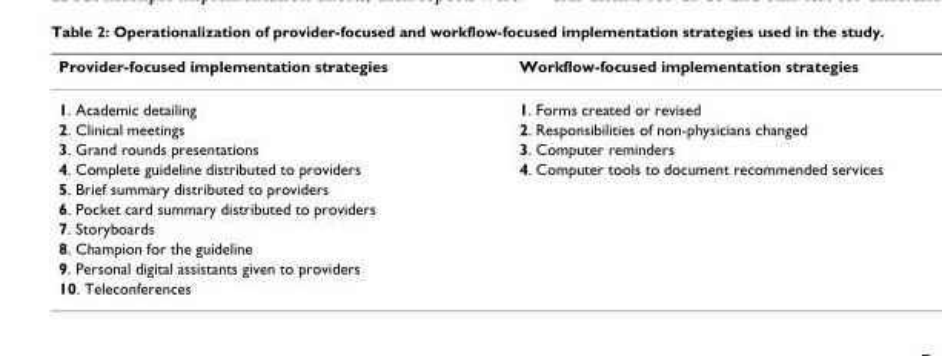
<table><thead><tr><td>Provider-focused implementation strategies</td><td>Workflow-focused implementation strategies</td></tr></thead><tbody><tr><td>1. Academic detailing</td><td>1. Forms created or revised</td></tr><tr><td>2. Clinical meetings</td><td>2. Responsibilities of non-physicians changed</td></tr><tr><td>3. Grand rounds presentations</td><td>3. Computer reminders</td></tr><tr><td>4. Complete guideline distributed to providers</td><td>4. Computer tools to document recommended services</td></tr><tr><td colspan="2">5. Brief summary distributed to providers</td></tr><tr><td colspan="2">6. Pocket card summary distributed to providers</td></tr><tr><td colspan="2">7. Storyboards</td></tr><tr><td colspan="2">8. Champion for the guideline</td></tr><tr><td colspan="2">9. Personal digital assistants given to providers</td></tr><tr><td>10. Teleconferences</td><td></td></tr></tbody></table>